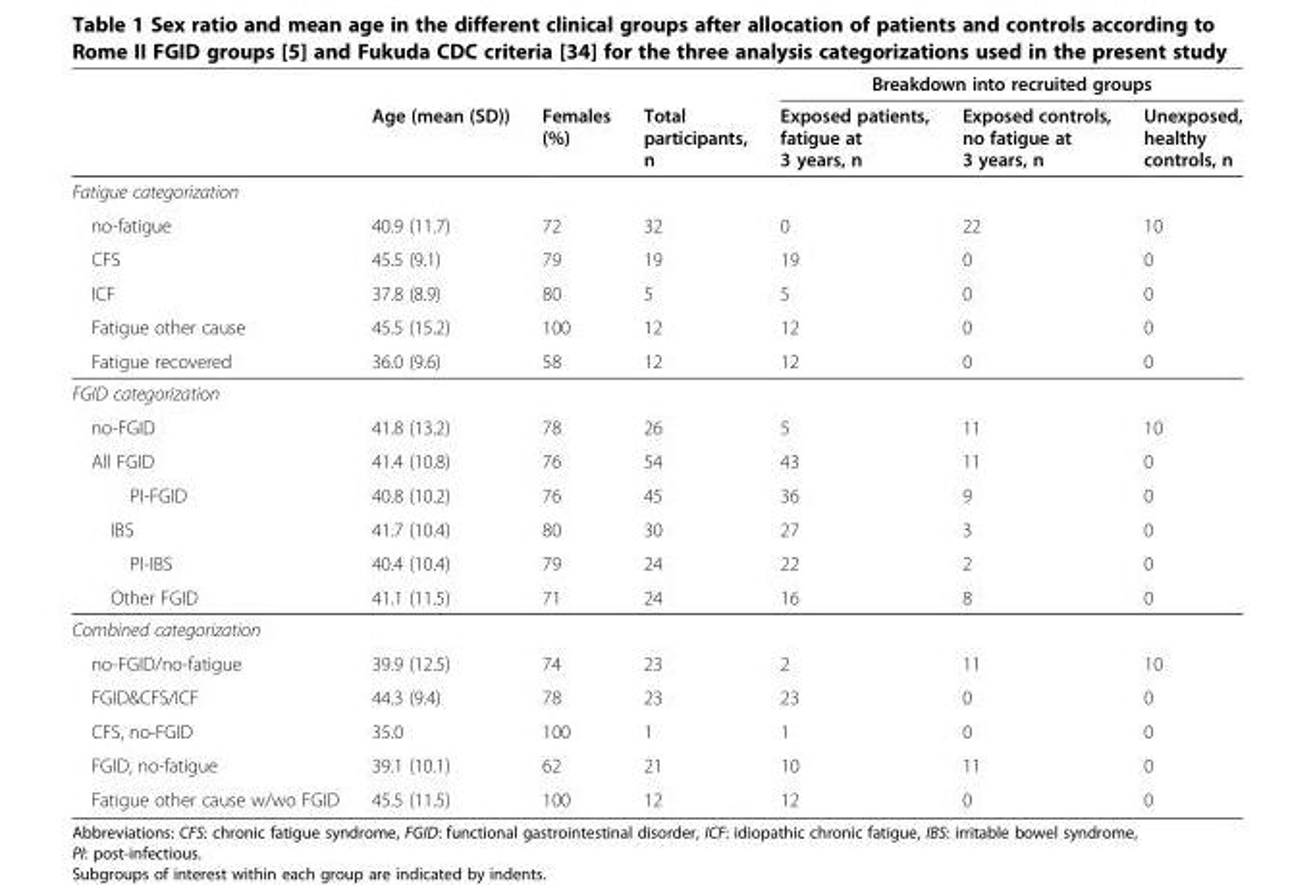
<table><thead><tr><td rowspan="2"></td><td rowspan="2">Age (mean (SD))</td><td rowspan="2">Females (%)</td><td rowspan="2">Total participants, n</td><td colspan="3">Breakdown into recruited groups</td></tr><tr><td>Exposed patients, fatigue at 3 years, n</td><td>Exposed controls, no fatigue at 3 years, n</td><td>Unexposed, healthy controls, n</td></tr></thead><tbody><tr><td colspan="7">Fatigue categorization</td></tr><tr><td>no-fatigue</td><td>40.9 (11.7)</td><td>72</td><td>32</td><td>0</td><td>22</td><td>10</td></tr><tr><td>CFS</td><td>45.5 (9.1)</td><td>79</td><td>19</td><td>19</td><td>0</td><td>0</td></tr><tr><td>ICF</td><td>37.8 (8.9)</td><td>80</td><td>5</td><td>5</td><td>0</td><td>0</td></tr><tr><td>Fatigue other cause</td><td>45.5 (15.2)</td><td>100</td><td>12</td><td>12</td><td>0</td><td>0</td></tr><tr><td>Fatigue recovered</td><td>36.0 (9.6)</td><td>58</td><td>12</td><td>12</td><td>0</td><td>0</td></tr><tr><td colspan="7">FGID categorization</td></tr><tr><td>no-FGID</td><td>41.8 (13.2)</td><td>78</td><td>26</td><td>5</td><td>11</td><td>10</td></tr><tr><td>All FGID</td><td>41.4 (10.8)</td><td>76</td><td>54</td><td>43</td><td>11</td><td>0</td></tr><tr><td>PI-FGID</td><td>40.8 (10.2)</td><td>76</td><td>45</td><td>36</td><td>9</td><td>0</td></tr><tr><td>IBS</td><td>41.7 (10.4)</td><td>80</td><td>30</td><td>27</td><td>3</td><td>0</td></tr><tr><td>PI-IBS</td><td>40.4 (10.4)</td><td>79</td><td>24</td><td>22</td><td>2</td><td>0</td></tr><tr><td>Other FGID</td><td>41.1 (11.5)</td><td>71</td><td>24</td><td>16</td><td>8</td><td>0</td></tr><tr><td colspan="7">Combined categorization</td></tr><tr><td>no-FGID/no-fatigue</td><td>39.9 (12.5)</td><td>74</td><td>23</td><td>2</td><td>11</td><td>10</td></tr><tr><td>FGID&amp;CFS/ICF</td><td>44.3 (9.4)</td><td>78</td><td>23</td><td>23</td><td>0</td><td>0</td></tr><tr><td>CFS, no-FGID</td><td>35.0</td><td>100</td><td>1</td><td>1</td><td>0</td><td>0</td></tr><tr><td>FGID, no-fatigue</td><td>39.1 (10.1)</td><td>62</td><td>21</td><td>10</td><td>11</td><td>0</td></tr><tr><td>Fatigue other cause w/wo FGID</td><td>45.5 (11.5)</td><td>100</td><td>12</td><td>12</td><td>0</td><td>0</td></tr></tbody></table>